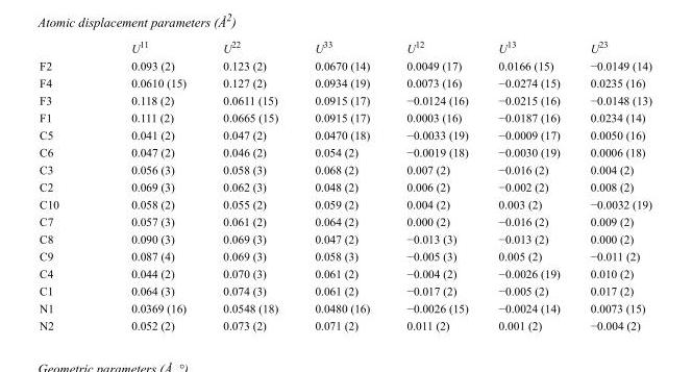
<table><thead><tr><td></td><td>U<sup>11</sup></td><td>U<sup>22</sup></td><td>U<sup>33</sup></td><td>U<sup>12</sup></td><td>U<sup>13</sup></td><td>U<sup>23</sup></td></tr></thead><tbody><tr><td>F2</td><td>0.093 (2)</td><td>0.123 (2)</td><td>0.0670 (14)</td><td>0.0049 (17)</td><td>0.0166 (15)</td><td>−0.0149 (14)</td></tr><tr><td>F4</td><td>0.0610 (15)</td><td>0.127 (2)</td><td>0.0934 (19)</td><td>0.0073 (16)</td><td>−0.0274 (15)</td><td>0.0235 (16)</td></tr><tr><td>F3</td><td>0.118 (2)</td><td>0.0611 (15)</td><td>0.0915 (17)</td><td>−0.0124 (16)</td><td>−0.0215 (16)</td><td>−0.0148 (13)</td></tr><tr><td>F1</td><td>0.111 (2)</td><td>0.0665 (15)</td><td>0.0915 (17)</td><td>0.0003 (16)</td><td>−0.0187 (16)</td><td>0.0234 (14)</td></tr><tr><td>C5</td><td>0.041 (2)</td><td>0.047 (2)</td><td>0.0470 (18)</td><td>−0.0033 (19)</td><td>−0.0009 (17)</td><td>0.0050 (16)</td></tr><tr><td>C6</td><td>0.047 (2)</td><td>0.046 (2)</td><td>0.054 (2)</td><td>−0.0019 (18)</td><td>−0.0030 (19)</td><td>0.0006 (18)</td></tr><tr><td>C3</td><td>0.056 (3)</td><td>0.058 (3)</td><td>0.068 (2)</td><td>0.007 (2)</td><td>−0.016 (2)</td><td>0.004 (2)</td></tr><tr><td>C2</td><td>0.069 (3)</td><td>0.062 (3)</td><td>0.048 (2)</td><td>0.006 (2)</td><td>−0.002 (2)</td><td>0.008 (2)</td></tr><tr><td>C10</td><td>0.058 (2)</td><td>0.055 (2)</td><td>0.059 (2)</td><td>0.004 (2)</td><td>0.003 (2)</td><td>−0.0032 (19)</td></tr><tr><td>C7</td><td>0.057 (3)</td><td>0.061 (2)</td><td>0.064 (2)</td><td>0.000 (2)</td><td>−0.016 (2)</td><td>0.009 (2)</td></tr><tr><td>C8</td><td>0.090 (3)</td><td>0.069 (3)</td><td>0.047 (2)</td><td>−0.013 (3)</td><td>−0.013 (2)</td><td>0.000 (2)</td></tr><tr><td>C9</td><td>0.087 (4)</td><td>0.069 (3)</td><td>0.058 (3)</td><td>−0.005 (3)</td><td>0.005 (2)</td><td>−0.011 (2)</td></tr><tr><td>C4</td><td>0.044 (2)</td><td>0.070 (3)</td><td>0.061 (2)</td><td>−0.004 (2)</td><td>−0.0026 (19)</td><td>0.010 (2)</td></tr><tr><td>C1</td><td>0.064 (3)</td><td>0.074 (3)</td><td>0.061 (2)</td><td>−0.017 (2)</td><td>−0.005 (2)</td><td>0.017 (2)</td></tr><tr><td>N1</td><td>0.0369 (16)</td><td>0.0548 (18)</td><td>0.0480 (16)</td><td>−0.0026 (15)</td><td>−0.0024 (14)</td><td>0.0073 (15)</td></tr><tr><td>N2</td><td>0.052 (2)</td><td>0.073 (2)</td><td>0.071 (2)</td><td>0.011 (2)</td><td>0.001 (2)</td><td>−0.004 (2)</td></tr></tbody></table>